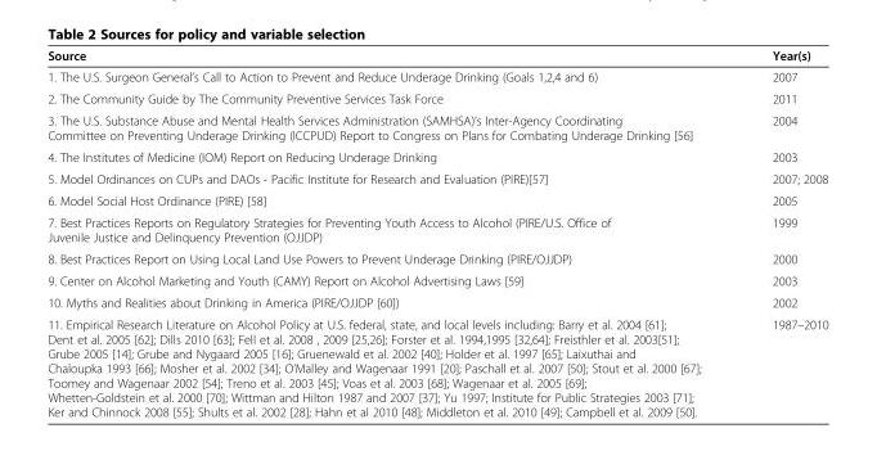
<table><thead><tr><td>Source</td><td>Year(s)</td></tr></thead><tbody><tr><td>1. The U.S. Surgeon General’s Call to Action to Prevent and Reduce Underage Drinking (Goals 1,2,4 and 6)</td><td>2007</td></tr><tr><td>2. The Community Guide by The Community Preventive Services Task Force</td><td>2011</td></tr><tr><td>3. The U.S. Substance Abuse and Mental Health Services Administration (SAMHSA)’s Inter-Agency Coordinating Committee on Preventing Underage Drinking (ICCPUD) Report to Congress on Plans for Combating Underage Drinking [56]</td><td>2004</td></tr><tr><td>4. The Institutes of Medicine (IOM) Report on Reducing Underage Drinking</td><td>2003</td></tr><tr><td>5. Model Ordinances on CUPs and DAOs - Pacific Institute for Research and Evaluation (PIRE)[57]</td><td>2007; 2008</td></tr><tr><td>6. Model Social Host Ordinance (PIRE) [58]</td><td>2005</td></tr><tr><td>7. Best Practices Reports on Regulatory Strategies for Preventing Youth Access to Alcohol (PIRE/U.S. Office of Juvenile Justice and Delinquency Prevention (OJJDP)</td><td>1999</td></tr><tr><td>8. Best Practices Report on Using Local Land Use Powers to Prevent Underage Drinking (PIRE/OJJDP)</td><td>2000</td></tr><tr><td>9. Center on Alcohol Marketing and Youth (CAMY) Report on Alcohol Advertising Laws [59]</td><td>2003</td></tr><tr><td>10. Myths and Realities about Drinking in America (PIRE/OJJDP [60])</td><td>2002</td></tr><tr><td>11. Empirical Research Literature on Alcohol Policy at U.S. federal, state, and local levels including: Barry et al. 2004 [61]; Dent et al. 2005 [62]; Dills 2010 [63]; Fell et al. 2008 , 2009 [25,26]; Forster et al. 1994,1995 [32,64]; Freisthler et al. 2003[51]; Grube 2005 [14]; Grube and Nygaard 2005 [16]; Gruenewald et al. 2002 [40]; Holder et al. 1997 [65]; Laixuthai and Chaloupka 1993 [66]; Mosher et al. 2002 [34]; O’Malley and Wagenaar 1991 [20]; Paschall et al. 2007 [50]; Stout et al. 2000 [67]; Toomey and Wagenaar 2002 [54]; Treno et al. 2003 [45]; Voas et al. 2003 [68]; Wagenaar et al. 2005 [69]; Whetten-Goldstein et al. 2000 [70]; Wittman and Hilton 1987 and 2007 [37]; Yu 1997; Institute for Public Strategies 2003 [71]; Ker and Chinnock 2008 [55]; Shults et al. 2002 [28]; Hahn et al 2010 [48]; Middleton et al. 2010 [49]; Campbell et al. 2009 [50].</td><td>1987–2010</td></tr></tbody></table>